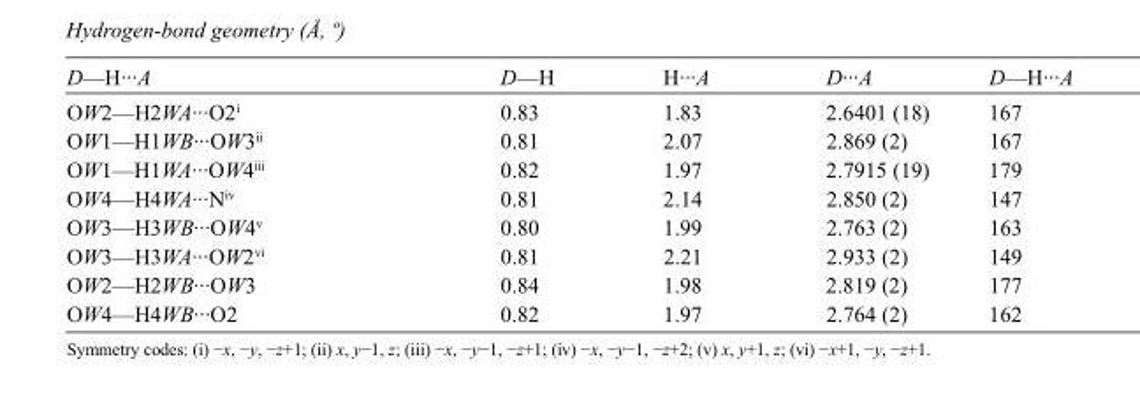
<table><tbody><tr><td>D—H···A</td><td>D—H</td><td>H···A</td><td>D···A</td><td>D—H···A</td></tr><tr><td>OW2—H2WA···O2<sup>i</sup></td><td>0.83</td><td>1.83</td><td>2.6401 (18)</td><td>167</td></tr><tr><td>OW1—H1WB···OW3<sup>ii</sup></td><td>0.81</td><td>2.07</td><td>2.869 (2)</td><td>167</td></tr><tr><td>OW1—H1WA···OW4<sup>iii</sup></td><td>0.82</td><td>1.97</td><td>2.7915 (19)</td><td>179</td></tr><tr><td>OW4—H4WA···N<sup>iv</sup></td><td>0.81</td><td>2.14</td><td>2.850 (2)</td><td>147</td></tr><tr><td>OW3—H3WB···OW4<sup>v</sup></td><td>0.80</td><td>1.99</td><td>2.763 (2)</td><td>163</td></tr><tr><td>OW3—H3WA···OW2<sup>vi</sup></td><td>0.81</td><td>2.21</td><td>2.933 (2)</td><td>149</td></tr><tr><td>OW2—H2WB···OW3</td><td>0.84</td><td>1.98</td><td>2.819 (2)</td><td>177</td></tr><tr><td>OW4—H4WB···O2</td><td>0.82</td><td>1.97</td><td>2.764 (2)</td><td>162</td></tr></tbody></table>